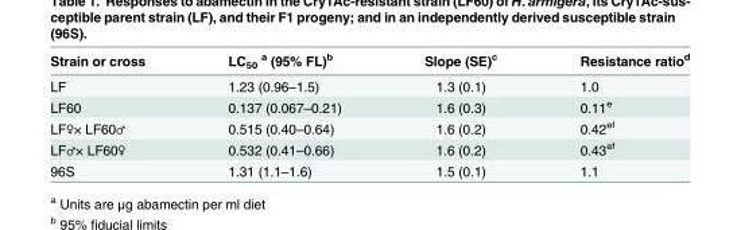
<table><thead><tr><td>Strain or cross</td><td>LC<sub>50</sub> <sup>a</sup> (95% FL)<sup>b</sup></td><td>Slope (SE)<sup>c</sup></td><td>Resistance ratio<sup>d</sup></td></tr></thead><tbody><tr><td>LF</td><td>1.23 (0.96–1.5)</td><td>1.3 (0.1)</td><td>1.0</td></tr><tr><td>LF60</td><td>0.137 (0.067–0.21)</td><td>1.6 (0.3)</td><td>0.11<sup>e</sup></td></tr><tr><td>LF♀× LF60♂</td><td>0.515 (0.40–0.64)</td><td>1.6 (0.2)</td><td>0.42<sup>ef</sup></td></tr><tr><td>LF♂× LF60♀</td><td>0.532 (0.41–0.66)</td><td>1.6 (0.2)</td><td>0.43<sup>ef</sup></td></tr><tr><td>96S</td><td>1.31 (1.1–1.6)</td><td>1.5 (0.1)</td><td>1.1</td></tr></tbody></table>